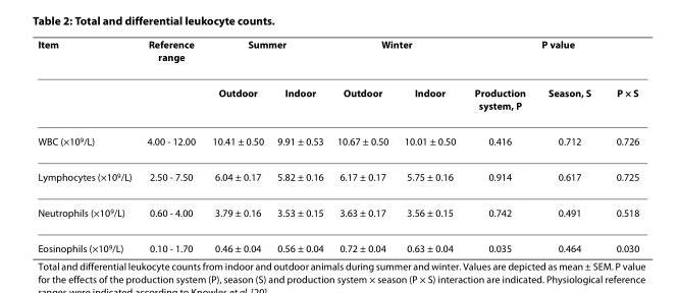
<table><thead><tr><td rowspan="2">Item</td><td rowspan="2">Reference range</td><td colspan="2">Summer</td><td colspan="2">Winter</td><td colspan="3">P value</td></tr><tr><td>Outdoor</td><td>Indoor</td><td>Outdoor</td><td>Indoor</td><td>Production system, P</td><td>Season, S</td><td>P × S</td></tr></thead><tbody><tr><td>WBC (×10<sup>9</sup>/L)</td><td>4.00 - 12.00</td><td>10.41 ± 0.50</td><td>9.91 ± 0.53</td><td>10.67 ± 0.50</td><td>10.01 ± 0.50</td><td>0.416</td><td>0.712</td><td>0.726</td></tr><tr><td>Lymphocytes (×10<sup>9</sup>/L)</td><td>2.50 - 7.50</td><td>6.04 ± 0.17</td><td>5.82 ± 0.16</td><td>6.17 ± 0.17</td><td>5.75 ± 0.16</td><td>0.914</td><td>0.617</td><td>0.725</td></tr><tr><td>Neutrophils (×10<sup>9</sup>/L)</td><td>0.60 - 4.00</td><td>3.79 ± 0.16</td><td>3.53 ± 0.15</td><td>3.63 ± 0.17</td><td>3.56 ± 0.15</td><td>0.742</td><td>0.491</td><td>0.518</td></tr><tr><td>Eosinophils (×10<sup>9</sup>/L)</td><td>0.10 - 1.70</td><td>0.46 ± 0.04</td><td>0.56 ± 0.04</td><td>0.72 ± 0.04</td><td>0.63 ± 0.04</td><td>0.035</td><td>0.464</td><td>0.030</td></tr></tbody></table>